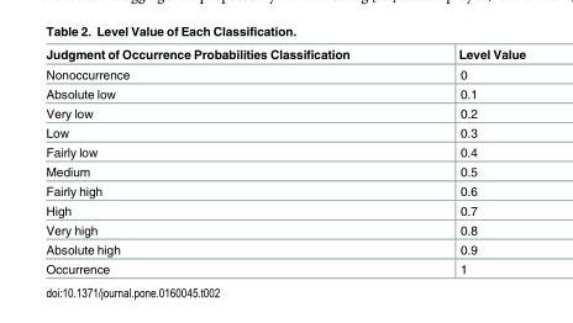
<table><thead><tr><td>Judgment of Occurrence Probabilities Classification</td><td>Level Value</td></tr></thead><tbody><tr><td>Nonoccurrence</td><td>0</td></tr><tr><td>Absolute low</td><td>0.1</td></tr><tr><td>Very low</td><td>0.2</td></tr><tr><td>Low</td><td>0.3</td></tr><tr><td>Fairly low</td><td>0.4</td></tr><tr><td>Medium</td><td>0.5</td></tr><tr><td>Fairly high</td><td>0.6</td></tr><tr><td>High</td><td>0.7</td></tr><tr><td>Very high</td><td>0.8</td></tr><tr><td>Absolute high</td><td>0.9</td></tr><tr><td>Occurrence</td><td>1</td></tr></tbody></table>